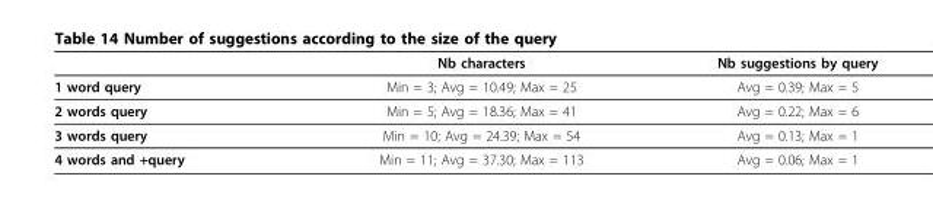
<table><thead><tr><td></td><td>Nb characters</td><td>Nb suggestions by query</td></tr></thead><tbody><tr><td>1 word query</td><td>Min = 3; Avg = 10.49; Max = 25</td><td>Avg = 0.39; Max = 5</td></tr><tr><td>2 words query</td><td>Min = 5; Avg = 18.36; Max = 41</td><td>Avg = 0.22; Max = 6</td></tr><tr><td>3 words query</td><td>Min = 10; Avg = 24.39; Max = 54</td><td>Avg = 0.13; Max = 1</td></tr><tr><td>4 words and +query</td><td>Min = 11; Avg = 37.30; Max = 113</td><td>Avg = 0.06; Max = 1</td></tr></tbody></table>